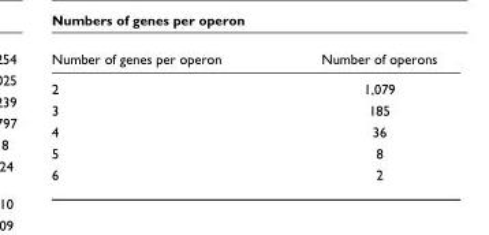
<table><thead><tr><td>Number of genes per operon</td><td>Number of operons</td></tr></thead><tbody><tr><td>2</td><td>1,079</td></tr><tr><td>3</td><td>185</td></tr><tr><td>4</td><td>36</td></tr><tr><td>5</td><td>8</td></tr><tr><td>6</td><td>2</td></tr></tbody></table>